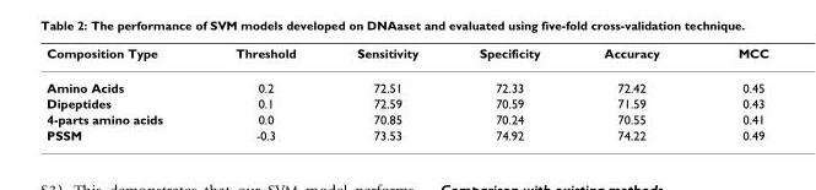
<table><thead><tr><td>Composition Type</td><td>Threshold</td><td>Sensitivity</td><td>Specificity</td><td>Accuracy</td><td>MCC</td></tr></thead><tbody><tr><td>Amino Acids</td><td>0.2</td><td>72.51</td><td>72.33</td><td>72.42</td><td>0.45</td></tr><tr><td>Dipeptides</td><td>0.1</td><td>72.59</td><td>70.59</td><td>71.59</td><td>0.43</td></tr><tr><td>4-parts amino acids</td><td>0.0</td><td>70.85</td><td>70.24</td><td>70.55</td><td>0.41</td></tr><tr><td>PSSM</td><td>-0.3</td><td>73.53</td><td>74.92</td><td>74.22</td><td>0.49</td></tr></tbody></table>